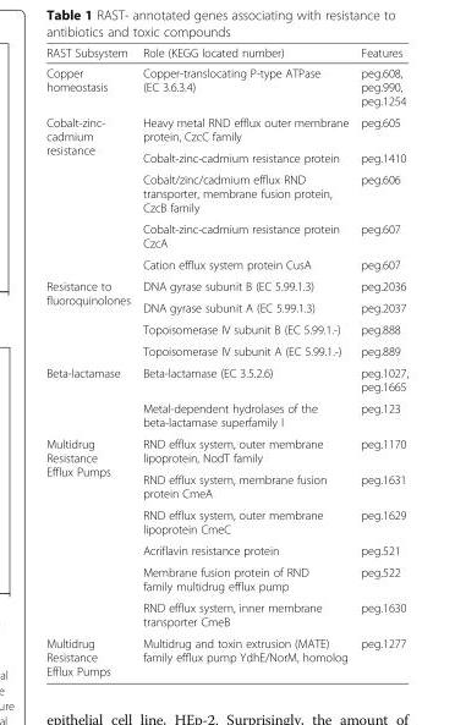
<table><thead><tr><td>RAST Subsystem</td><td>Role (KEGG located number)</td><td>Features</td></tr></thead><tbody><tr><td>Copper homeostasis</td><td>Copper-translocating P-type ATPase (EC 3.6.3.4)</td><td>peg.608, peg.990, peg.1254</td></tr><tr><td rowspan="5">Cobalt-zinc- cadmium resistance</td><td>Heavy metal RND efflux outer membrane protein, CzcC family</td><td>peg.605</td></tr><tr><td>Cobalt-zinc-cadmium resistance protein</td><td>peg.1410</td></tr><tr><td>Cobalt/zinc/cadmium efflux RND transporter, membrane fusion protein, CzcB family</td><td>peg.606</td></tr><tr><td>Cobalt-zinc-cadmium resistance protein CzcA</td><td>peg.607</td></tr><tr><td>Cation efflux system protein CusA</td><td>peg.607</td></tr><tr><td rowspan="4">Resistance to fluoroquinolones</td><td>DNA gyrase subunit B (EC 5.99.1.3)</td><td>peg.2036</td></tr><tr><td>DNA gyrase subunit A (EC 5.99.1.3)</td><td>peg.2037</td></tr><tr><td>Topoisomerase IV subunit B (EC 5.99.1.-)</td><td>peg.888</td></tr><tr><td>Topoisomerase IV subunit A (EC 5.99.1.-)</td><td>peg.889</td></tr><tr><td rowspan="2">Beta-lactamase</td><td>Beta-lactamase (EC 3.5.2.6)</td><td>peg.1027, peg.1665</td></tr><tr><td>Metal-dependent hydrolases of the beta-lactamase superfamily I</td><td>peg.123</td></tr><tr><td rowspan="6">Multidrug Resistance Efflux Pumps</td><td>RND efflux system, outer membrane lipoprotein, NodT family</td><td>peg.1170</td></tr><tr><td>RND efflux system, membrane fusion protein CmeA</td><td>peg.1631</td></tr><tr><td>RND efflux system, outer membrane lipoprotein CmeC</td><td>peg.1629</td></tr><tr><td>Acriflavin resistance protein</td><td>peg.521</td></tr><tr><td>Membrane fusion protein of RND family multidrug efflux pump</td><td>peg.522</td></tr><tr><td>RND efflux system, inner membrane transporter CmeB</td><td>peg.1630</td></tr><tr><td>Multidrug Resistance Efflux Pumps</td><td>Multidrug and toxin extrusion (MATE) family efflux pump YdhE/NorM, homolog</td><td>peg.1277</td></tr></tbody></table>